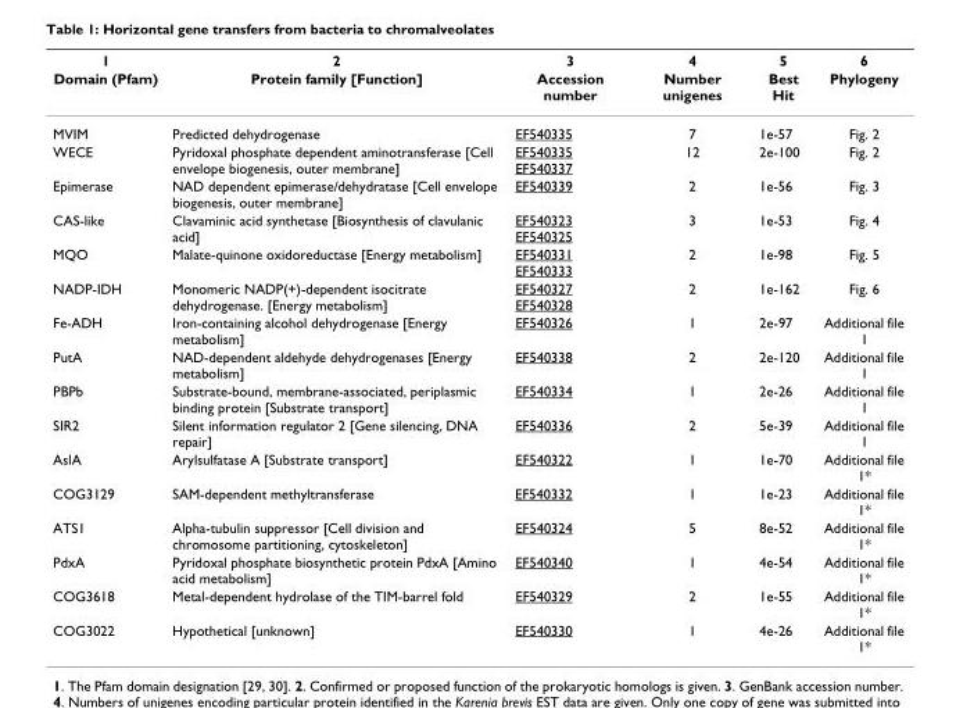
<table><thead><tr><td rowspan="2">1 Domain (Pfam)</td><td rowspan="2">2 Protein family [Function]</td><td rowspan="2">3 Accession number</td><td rowspan="2">4 Number unigenes</td><td rowspan="2">5 Best Hit</td><td rowspan="2">6 Phylogeny</td></tr><tr></tr></thead><tbody><tr><td>MVIM</td><td>Predicted dehydrogenase</td><td>EF540335</td><td>7</td><td>1e-57</td><td>Fig. 2</td></tr><tr><td>WECE</td><td>Pyridoxal phosphate dependent aminotransferase [Cell envelope biogenesis, outer membrane]</td><td>EF540335 EF540337</td><td>12</td><td>2e-100</td><td>Fig. 2</td></tr><tr><td>Epimerase</td><td>NAD dependent epimerase/dehydratase [Cell envelope biogenesis, outer membrane]</td><td>EF540339</td><td>2</td><td>1e-56</td><td>Fig. 3</td></tr><tr><td>CAS-like</td><td>Clavaminic acid synthetase [Biosynthesis of clavulanic acid]</td><td>EF540323 EF540325</td><td>3</td><td>1e-53</td><td>Fig. 4</td></tr><tr><td>MQO</td><td>Malate-quinone oxidoreductase [Energy metabolism]</td><td>EF540331 EF540333</td><td>2</td><td>1e-98</td><td>Fig. 5</td></tr><tr><td>NADP-IDH</td><td>Monomeric NADP(+)-dependent isocitrate dehydrogenase. [Energy metabolism]</td><td>EF540327 EF540328</td><td>2</td><td>1e-162</td><td>Fig. 6</td></tr><tr><td>Fe-ADH</td><td>Iron-containing alcohol dehydrogenase [Energy metabolism]</td><td>EF540326</td><td>1</td><td>2e-97</td><td>Additional file 1</td></tr><tr><td>PutA</td><td>NAD-dependent aldehyde dehydrogenases [Energy metabolism]</td><td>EF540338</td><td>2</td><td>2e-120</td><td>Additional file 1</td></tr><tr><td>PBPb</td><td>Substrate-bound, membrane-associated, periplasmic binding protein [Substrate transport]</td><td>EF540334</td><td>1</td><td>2e-26</td><td>Additional file 1</td></tr><tr><td>SIR2</td><td>Silent information regulator 2 [Gene silencing, DNA repair]</td><td>EF540336</td><td>2</td><td>5e-39</td><td>Additional file 1</td></tr><tr><td>AslA</td><td>Arylsulfatase A [Substrate transport]</td><td>EF540322</td><td>1</td><td>1e-70</td><td>Additional file 1*</td></tr><tr><td>COG3129</td><td>SAM-dependent methyltransferase</td><td>EF540332</td><td>1</td><td>1e-23</td><td>Additional file 1*</td></tr><tr><td>ATS1</td><td>Alpha-tubulin suppressor [Cell division and chromosome partitioning, cytoskeleton]</td><td>EF540324</td><td>5</td><td>8e-52</td><td>Additional file 1*</td></tr><tr><td>PdxA</td><td>Pyridoxal phosphate biosynthetic protein PdxA [Amino acid metabolism]</td><td>EF540340</td><td>1</td><td>4e-54</td><td>Additional file 1*</td></tr><tr><td>COG3618</td><td>Metal-dependent hydrolase of the TIM-barrel fold</td><td>EF540329</td><td>2</td><td>1e-55</td><td>Additional file 1*</td></tr><tr><td>COG3022</td><td>Hypothetical [unknown]</td><td>EF540330</td><td>1</td><td>4e-26</td><td>Additional file 1*</td></tr></tbody></table>